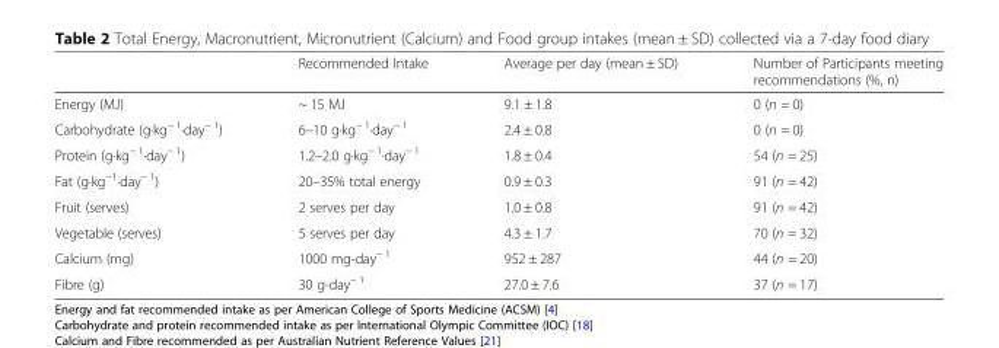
<table><thead><tr><td></td><td>Recommended Intake</td><td>Average per day (mean ± SD)</td><td>Number of Participants meeting recommendations (%, n)</td></tr></thead><tbody><tr><td>Energy (MJ)</td><td>~ 15 MJ</td><td>9.1 ± 1.8</td><td>0 (n = 0)</td></tr><tr><td>Carbohydrate (g·kg<sup>− 1</sup>·day<sup>− 1</sup>)</td><td>6–10 g·kg<sup>− 1</sup>·day<sup>− 1</sup></td><td>2.4 ± 0.8</td><td>0 (n = 0)</td></tr><tr><td>Protein (g·kg<sup>− 1</sup>·day<sup>− 1</sup>)</td><td>1.2–2.0 g·kg<sup>− 1</sup>·day<sup>− 1</sup></td><td>1.8 ± 0.4</td><td>54 (n = 25)</td></tr><tr><td>Fat (g·kg<sup>−1</sup>·day<sup>− 1</sup>)</td><td>20–35% total energy</td><td>0.9 ± 0.3</td><td>91 (n = 42)</td></tr><tr><td>Fruit (serves)</td><td>2 serves per day</td><td>1.0 ± 0.8</td><td>91 (n = 42)</td></tr><tr><td>Vegetable (serves)</td><td>5 serves per day</td><td>4.3 ± 1.7</td><td>70 (n = 32)</td></tr><tr><td>Calcium (mg)</td><td>1000 mg-day<sup>− 1</sup></td><td>952 ± 287</td><td>44 (n = 20)</td></tr><tr><td>Fibre (g)</td><td>30 g-day<sup>− 1</sup></td><td>27.0 ± 7.6</td><td>37 (n = 17)</td></tr></tbody></table>